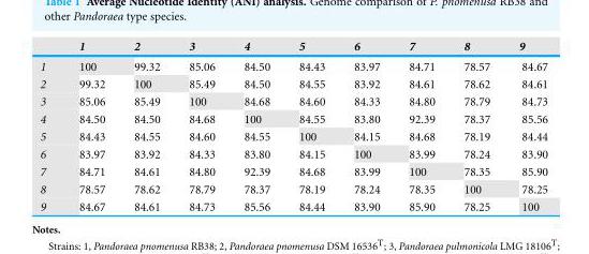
<table><thead><tr><td></td><td>1</td><td>2</td><td>3</td><td>4</td><td>5</td><td>6</td><td>7</td><td>8</td><td>9</td></tr></thead><tbody><tr><td>1</td><td>100</td><td>99.32</td><td>85.06</td><td>84.50</td><td>84.43</td><td>83.97</td><td>84.71</td><td>78.57</td><td>84.67</td></tr><tr><td>2</td><td>99.32</td><td>100</td><td>85.49</td><td>84.50</td><td>84.55</td><td>83.92</td><td>84.61</td><td>78.62</td><td>84.61</td></tr><tr><td>3</td><td>85.06</td><td>85.49</td><td>100</td><td>84.68</td><td>84.60</td><td>84.33</td><td>84.80</td><td>78.79</td><td>84.73</td></tr><tr><td>4</td><td>84.50</td><td>84.50</td><td>84.68</td><td>100</td><td>84.55</td><td>83.80</td><td>92.39</td><td>78.37</td><td>85.56</td></tr><tr><td>5</td><td>84.43</td><td>84.55</td><td>84.60</td><td>84.55</td><td>100</td><td>84.15</td><td>84.68</td><td>78.19</td><td>84.44</td></tr><tr><td>6</td><td>83.97</td><td>83.92</td><td>84.33</td><td>83.80</td><td>84.15</td><td>100</td><td>83.99</td><td>78.24</td><td>83.90</td></tr><tr><td>7</td><td>84.71</td><td>84.61</td><td>84.80</td><td>92.39</td><td>84.68</td><td>83.99</td><td>100</td><td>78.35</td><td>85.90</td></tr><tr><td>8</td><td>78.57</td><td>78.62</td><td>78.79</td><td>78.37</td><td>78.19</td><td>78.24</td><td>78.35</td><td>100</td><td>78.25</td></tr><tr><td>9</td><td>84.67</td><td>84.61</td><td>84.73</td><td>85.56</td><td>84.44</td><td>83.90</td><td>85.90</td><td>78.25</td><td>100</td></tr></tbody></table>